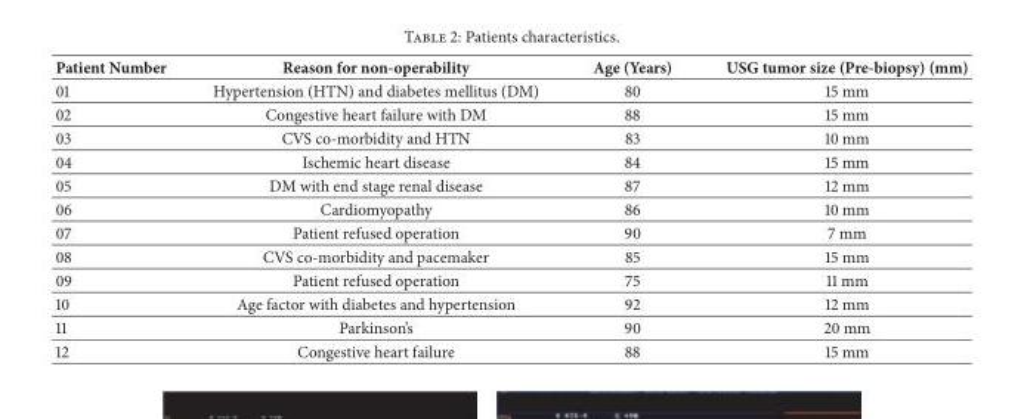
<table><thead><tr><td>Patient Number</td><td>Reason for non-operability</td><td>Age (Years)</td><td>USG tumor size (Pre-biopsy) (mm)</td></tr></thead><tbody><tr><td>01</td><td>Hypertension (HTN) and diabetes mellitus (DM)</td><td>80</td><td>15 mm</td></tr><tr><td>02</td><td>Congestive heart failure with DM</td><td>88</td><td>15 mm</td></tr><tr><td>03</td><td>CVS co-morbidity and HTN</td><td>83</td><td>10 mm</td></tr><tr><td>04</td><td>Ischemic heart disease</td><td>84</td><td>15 mm</td></tr><tr><td>05</td><td>DM with end stage renal disease</td><td>87</td><td>12 mm</td></tr><tr><td>06</td><td>Cardiomyopathy</td><td>86</td><td>10 mm</td></tr><tr><td>07</td><td>Patient refused operation</td><td>90</td><td>7 mm</td></tr><tr><td>08</td><td>CVS co-morbidity and pacemaker</td><td>85</td><td>15 mm</td></tr><tr><td>09</td><td>Patient refused operation</td><td>75</td><td>11 mm</td></tr><tr><td>10</td><td>Age factor with diabetes and hypertension</td><td>92</td><td>12 mm</td></tr><tr><td>11</td><td>Parkinson’s</td><td>90</td><td>20 mm</td></tr><tr><td>12</td><td>Congestive heart failure</td><td>88</td><td>15 mm</td></tr></tbody></table>